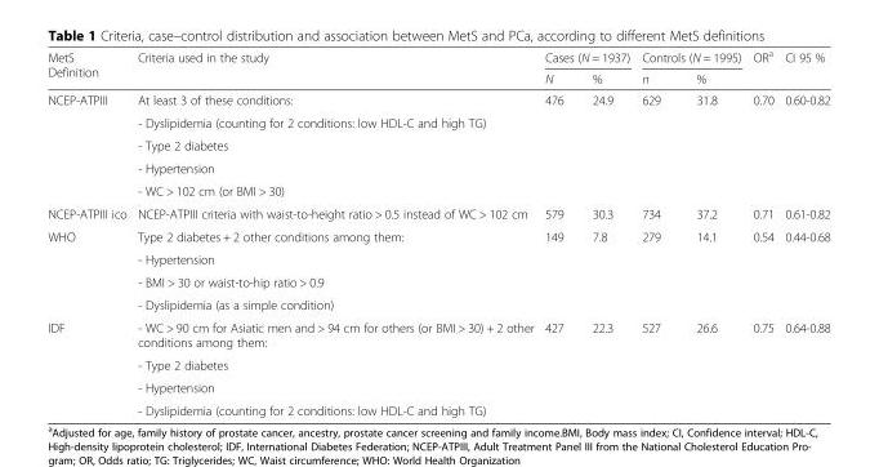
<table><thead><tr><td rowspan="2">MetS Definition</td><td rowspan="2">Criteria used in the study</td><td colspan="2">Cases (N = 1937)</td><td colspan="2">Controls (N = 1995)</td><td rowspan="2">OR<sup>a</sup></td><td rowspan="2">CI 95 %</td></tr><tr><td>N</td><td>%</td><td>n</td><td>%</td></tr></thead><tbody><tr><td rowspan="5">NCEP-ATPIII</td><td>At least 3 of these conditions:</td><td rowspan="5">476</td><td rowspan="5">24.9</td><td rowspan="5">629</td><td rowspan="5">31.8</td><td rowspan="5">0.70</td><td rowspan="5">0.60-0.82</td></tr><tr><td>- Dyslipidemia (counting for 2 conditions: low HDL-C and high TG)</td></tr><tr><td>- Type 2 diabetes</td></tr><tr><td>- Hypertension</td></tr><tr><td>- WC &gt; 102 cm (or BMI &gt; 30)</td></tr><tr><td>NCEP-ATPIII ico</td><td>NCEP-ATPIII criteria with waist-to-height ratio &gt; 0.5 instead of WC &gt; 102 cm</td><td>579</td><td>30.3</td><td>734</td><td>37.2</td><td>0.71</td><td>0.61-0.82</td></tr><tr><td rowspan="4">WHO</td><td>Type 2 diabetes + 2 other conditions among them:</td><td rowspan="4">149</td><td rowspan="4">7.8</td><td rowspan="4">279</td><td rowspan="4">14.1</td><td rowspan="4">0.54</td><td rowspan="4">0.44-0.68</td></tr><tr><td>- Hypertension</td></tr><tr><td>- BMI &gt; 30 or waist-to-hip ratio &gt; 0.9</td></tr><tr><td>- Dyslipidemia (as a simple condition)</td></tr><tr><td rowspan="4">IDF</td><td>- WC &gt; 90 cm for Asiatic men and &gt; 94 cm for others (or BMI &gt; 30) + 2 other conditions among them:</td><td rowspan="4">427</td><td rowspan="4">22.3</td><td rowspan="4">527</td><td rowspan="4">26.6</td><td rowspan="4">0.75</td><td rowspan="4">0.64-0.88</td></tr><tr><td>- Type 2 diabetes</td></tr><tr><td>- Hypertension</td></tr><tr><td>- Dyslipidemia (counting for 2 conditions: low HDL-C and high TG)</td></tr></tbody></table>